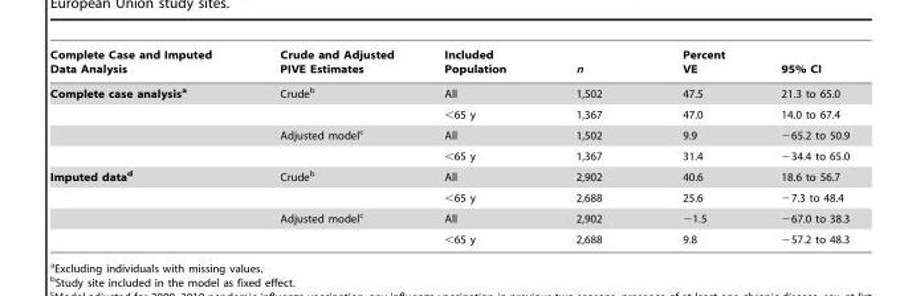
<table><thead><tr><td>Complete Case and Imputed Data Analysis</td><td>Crude and Adjusted PIVE Estimates</td><td>Included Population</td><td>n</td><td>Percent VE</td><td>95% CI</td></tr></thead><tbody><tr><td rowspan="4">Complete case analysisa</td><td>Crude<sup>b</sup></td><td>All</td><td>1,502</td><td>47.5</td><td>21.3 to 65.0</td></tr><tr><td></td><td>&lt;65 y</td><td>1,367</td><td>47.0</td><td>14.0 to 67.4</td></tr><tr><td>Adjusted model<sup>c</sup></td><td>All</td><td>1,502</td><td>9.9</td><td>−65.2 to 50.9</td></tr><tr><td></td><td>&lt;65 y</td><td>1,367</td><td>31.4</td><td>−34.4 to 65.0</td></tr><tr><td rowspan="4">Imputed datad</td><td>Crude<sup>b</sup></td><td>All</td><td>2,902</td><td>40.6</td><td>18.6 to 56.7</td></tr><tr><td></td><td>&lt;65 y</td><td>2,688</td><td>25.6</td><td>−7.3 to 48.4</td></tr><tr><td>Adjusted model<sup>c</sup></td><td>All</td><td>2,902</td><td>−1.5</td><td>−67.0 to 38.3</td></tr><tr><td></td><td>&lt;65 y</td><td>2,688</td><td>9.8</td><td>−57.2 to 48.3</td></tr></tbody></table>